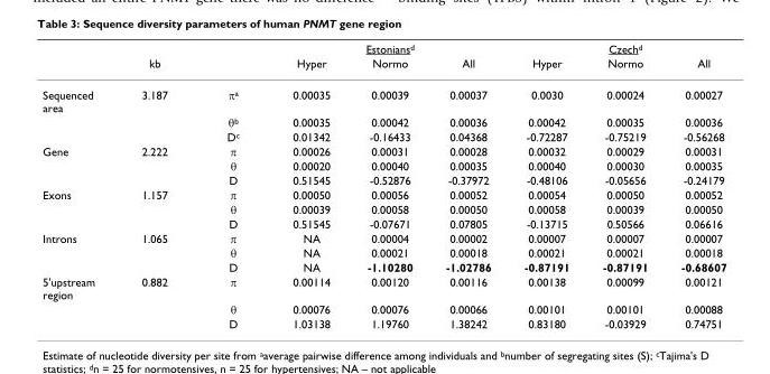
<table><thead><tr><td rowspan="2"></td><td rowspan="2">kb</td><td rowspan="2"></td><td colspan="3">Estonians<sup>d</sup></td><td colspan="3">Czech<sup>d</sup></td></tr><tr><td>Hyper</td><td>Normo</td><td>All</td><td>Hyper</td><td>Normo</td><td>All</td></tr></thead><tbody><tr><td rowspan="3">Sequenced area</td><td>3.187</td><td>π<sup>a</sup></td><td>0.00035</td><td>0.00039</td><td>0.00037</td><td>0.0030</td><td>0.00024</td><td>0.00027</td></tr><tr><td></td><td>θ<sup>b</sup></td><td>0.00035</td><td>0.00042</td><td>0.00036</td><td>0.00042</td><td>0.00035</td><td>0.00036</td></tr><tr><td></td><td>D<sup>c</sup></td><td>0.01342</td><td>-0.16433</td><td>0.04368</td><td>-0.72287</td><td>-0.75219</td><td>-0.56268</td></tr><tr><td rowspan="3">Gene</td><td>2.222</td><td>π</td><td>0.00026</td><td>0.00031</td><td>0.00028</td><td>0.00032</td><td>0.00029</td><td>0.00031</td></tr><tr><td></td><td>θ</td><td>0.00020</td><td>0.00040</td><td>0.00035</td><td>0.00040</td><td>0.00030</td><td>0.00035</td></tr><tr><td></td><td>D</td><td>0.51545</td><td>-0.52876</td><td>-0.37972</td><td>-0.48106</td><td>-0.05656</td><td>-0.24179</td></tr><tr><td rowspan="3">Exons</td><td>1.157</td><td>π</td><td>0.00050</td><td>0.00056</td><td>0.00052</td><td>0.00054</td><td>0.00050</td><td>0.00052</td></tr><tr><td></td><td>θ</td><td>0.00039</td><td>0.00058</td><td>0.00050</td><td>0.00058</td><td>0.00039</td><td>0.00050</td></tr><tr><td></td><td>D</td><td>0.51545</td><td>-0.07671</td><td>0.07805</td><td>-0.13715</td><td>0.50566</td><td>0.06616</td></tr><tr><td rowspan="3">Introns</td><td>1.065</td><td>π</td><td>NA</td><td>0.00004</td><td>0.00002</td><td>0.00007</td><td>0.00007</td><td>0.00007</td></tr><tr><td></td><td>θ</td><td>NA</td><td>0.00021</td><td>0.00018</td><td>0.00021</td><td>0.00021</td><td>0.00018</td></tr><tr><td></td><td>D</td><td>NA</td><td>-1.10280</td><td>-1.02786</td><td>-0.87191</td><td>-0.87191</td><td>-0.68607</td></tr><tr><td rowspan="3">5&#x27;upstream region</td><td>0.882</td><td>π</td><td>0.00114</td><td>0.00120</td><td>0.00116</td><td>0.00138</td><td>0.00099</td><td>0.00121</td></tr><tr><td></td><td>θ</td><td>0.00076</td><td>0.00076</td><td>0.00066</td><td>0.00101</td><td>0.00101</td><td>0.00088</td></tr><tr><td></td><td>D</td><td>1.03138</td><td>1.19760</td><td>1.38242</td><td>0.83180</td><td>-0.03929</td><td>0.74751</td></tr></tbody></table>